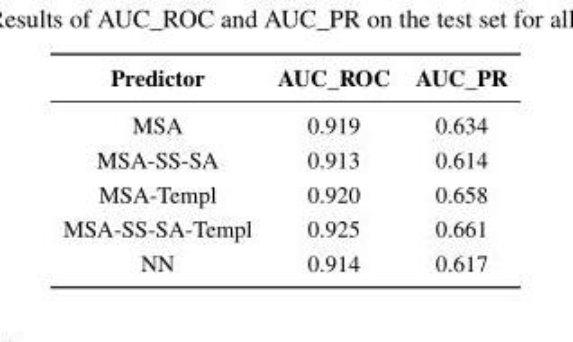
<table><thead><tr><td>Predictor</td><td>AUC_ROC</td><td>AUC_PR</td></tr></thead><tbody><tr><td>MSA</td><td>0.919</td><td>0.634</td></tr><tr><td>MSA-SS-SA</td><td>0.913</td><td>0.614</td></tr><tr><td>MSA-Templ</td><td>0.920</td><td>0.658</td></tr><tr><td>MSA-SS-SA-Templ</td><td>0.925</td><td>0.661</td></tr><tr><td>NN</td><td>0.914</td><td>0.617</td></tr></tbody></table>